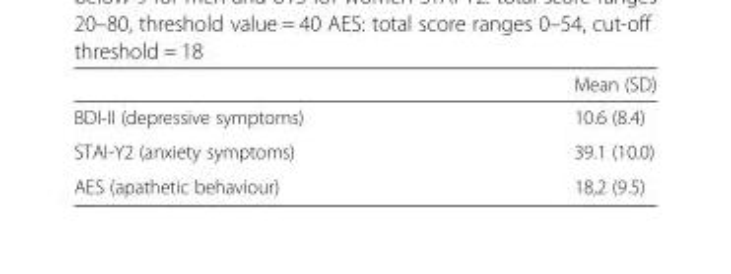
<table><thead><tr><td></td><td>Mean (SD)</td></tr></thead><tbody><tr><td>BDI-II (depressive symptoms)</td><td>10.6 (8.4)</td></tr><tr><td>STAI-Y2 (anxiety symptoms)</td><td>39.1 (10.0)</td></tr><tr><td>AES (apathetic behaviour)</td><td>18,2 (9.5)</td></tr></tbody></table>